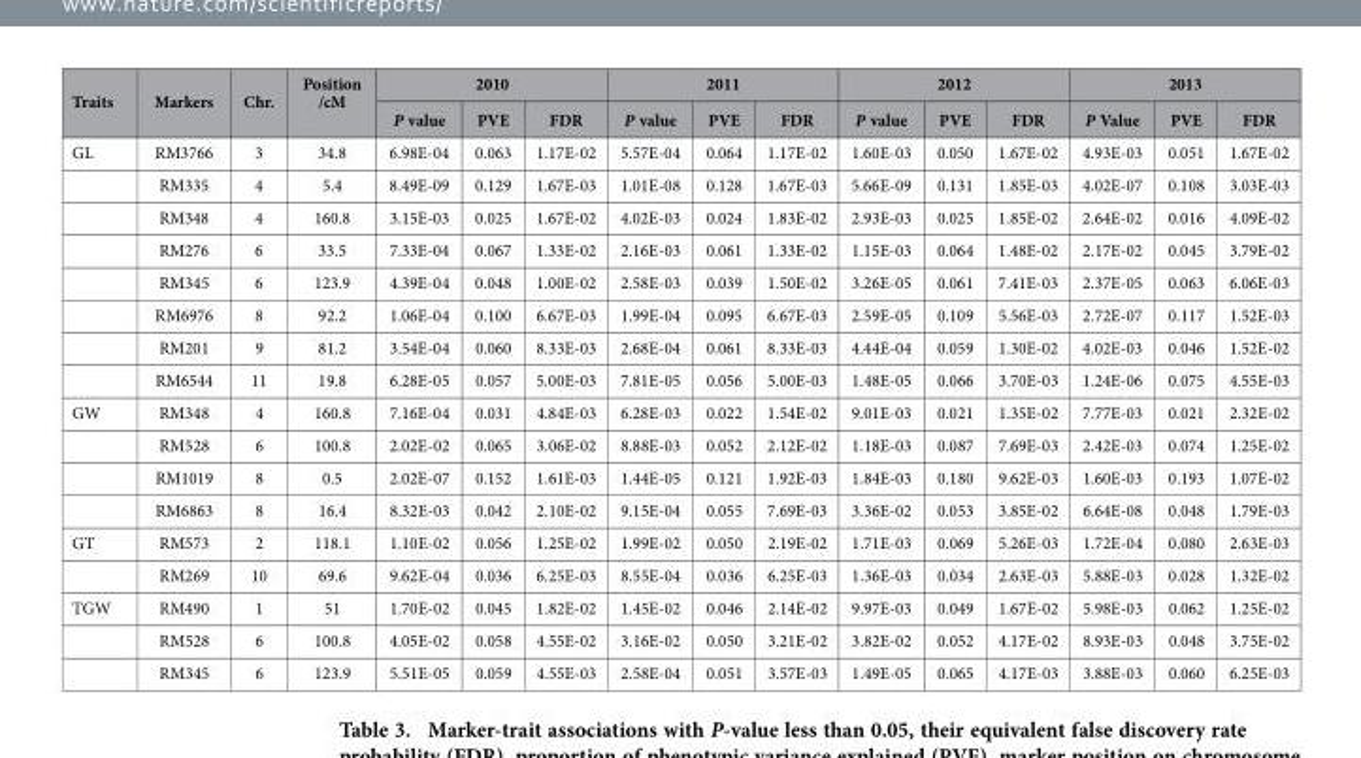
<table><thead><tr><td rowspan="2">Traits</td><td rowspan="2">Markers</td><td rowspan="2">Chr.</td><td rowspan="2">Position /cM</td><td colspan="3">2010</td><td colspan="3">2011</td><td colspan="3">2012</td><td colspan="3">2013</td></tr><tr><td>P value</td><td>PVE</td><td>FDR</td><td>P value</td><td>PVE</td><td>FDR</td><td>P value</td><td>PVE</td><td>FDR</td><td>P Value</td><td>PVE</td><td>FDR</td></tr></thead><tbody><tr><td rowspan="8">GL</td><td>RM3766</td><td>3</td><td>34.8</td><td>6.98E-04</td><td>0.063</td><td>1.17E-02</td><td>5.57E-04</td><td>0.064</td><td>1.17E-02</td><td>1.60E-03</td><td>0.050</td><td>1.67E-02</td><td>4.93E-03</td><td>0.051</td><td>1.67E-02</td></tr><tr><td>RM335</td><td>4</td><td>5.4</td><td>8.49E-09</td><td>0.129</td><td>1.67E-03</td><td>1.01E-08</td><td>0.128</td><td>1.67E-03</td><td>5.66E-09</td><td>0.131</td><td>1.85E-03</td><td>4.02E-07</td><td>0.108</td><td>3.03E-03</td></tr><tr><td>RM348</td><td>4</td><td>160.8</td><td>3.15E-03</td><td>0.025</td><td>1.67E-02</td><td>4.02E-03</td><td>0.024</td><td>1.83E-02</td><td>2.93E-03</td><td>0.025</td><td>1.85E-02</td><td>2.64E-02</td><td>0.016</td><td>4.09E-02</td></tr><tr><td>RM276</td><td>6</td><td>33.5</td><td>7.33E-04</td><td>0.067</td><td>1.33E-02</td><td>2.16E-03</td><td>0.061</td><td>1.33E-02</td><td>1.15E-03</td><td>0.064</td><td>1.48E-02</td><td>2.17E-02</td><td>0.045</td><td>3.79E-02</td></tr><tr><td>RM345</td><td>6</td><td>123.9</td><td>4.39E-04</td><td>0.048</td><td>1.00E-02</td><td>2.58E-03</td><td>0.039</td><td>1.50E-02</td><td>3.26E-05</td><td>0.061</td><td>7.41E-03</td><td>2.37E-05</td><td>0.063</td><td>6.06E-03</td></tr><tr><td>RM6976</td><td>8</td><td>92.2</td><td>1.06E-04</td><td>0.100</td><td>6.67E-03</td><td>1.99E-04</td><td>0.095</td><td>6.67E-03</td><td>2.59E-05</td><td>0.109</td><td>5.56E-03</td><td>2.72E-07</td><td>0.117</td><td>1.52E-03</td></tr><tr><td>RM201</td><td>9</td><td>81.2</td><td>3.54E-04</td><td>0.060</td><td>8.33E-03</td><td>2.68E-04</td><td>0.061</td><td>8.33E-03</td><td>4.44E-04</td><td>0.059</td><td>1.30E-02</td><td>4.02E-03</td><td>0.046</td><td>1.52E-02</td></tr><tr><td>RM6544</td><td>11</td><td>19.8</td><td>6.28E-05</td><td>0.057</td><td>5.00E-03</td><td>7.81E-05</td><td>0.056</td><td>5.00E-03</td><td>1.48E-05</td><td>0.066</td><td>3.70E-03</td><td>1.24E-06</td><td>0.075</td><td>4.55E-03</td></tr><tr><td rowspan="4">GW</td><td>RM348</td><td>4</td><td>160.8</td><td>7.16E-04</td><td>0.031</td><td>4.84E-03</td><td>6.28E-03</td><td>0.022</td><td>1.54E-02</td><td>9.01E-03</td><td>0.021</td><td>1.35E-02</td><td>7.77E-03</td><td>0.021</td><td>2.32E-02</td></tr><tr><td>RM528</td><td>6</td><td>100.8</td><td>2.02E-02</td><td>0.065</td><td>3.06E-02</td><td>8.88E-03</td><td>0.052</td><td>2.12E-02</td><td>1.18E-03</td><td>0.087</td><td>7.69E-03</td><td>2.42E-03</td><td>0.074</td><td>1.25E-02</td></tr><tr><td>RM1019</td><td>8</td><td>0.5</td><td>2.02E-07</td><td>0.152</td><td>1.61E-03</td><td>1.44E-05</td><td>0.121</td><td>1.92E-03</td><td>1.84E-03</td><td>0.180</td><td>9.62E-03</td><td>1.60E-03</td><td>0.193</td><td>1.07E-02</td></tr><tr><td>RM6863</td><td>8</td><td>16.4</td><td>8.32E-03</td><td>0.042</td><td>2.10E-02</td><td>9.15E-04</td><td>0.055</td><td>7.69E-03</td><td>3.36E-02</td><td>0.053</td><td>3.85E-02</td><td>6.64E-08</td><td>0.048</td><td>1.79E-03</td></tr><tr><td rowspan="2">GT</td><td>RM573</td><td>2</td><td>118.1</td><td>1.10E-02</td><td>0.056</td><td>1.25E-02</td><td>1.99E-02</td><td>0.050</td><td>2.19E-02</td><td>1.71E-03</td><td>0.069</td><td>5.26E-03</td><td>1.72E-04</td><td>0.080</td><td>2.63E-03</td></tr><tr><td>RM269</td><td>10</td><td>69.6</td><td>9.62E-04</td><td>0.036</td><td>6.25E-03</td><td>8.55E-04</td><td>0.036</td><td>6.25E-03</td><td>1.36E-03</td><td>0.034</td><td>2.63E-03</td><td>5.88E-03</td><td>0.028</td><td>1.32E-02</td></tr><tr><td rowspan="3">TGW</td><td>RM490</td><td>1</td><td>51</td><td>1.70E-02</td><td>0.045</td><td>1.82E-02</td><td>1.45E-02</td><td>0.046</td><td>2.14E-02</td><td>9.97E-03</td><td>0.049</td><td>1.67E-02</td><td>5.98E-03</td><td>0.062</td><td>1.25E-02</td></tr><tr><td>RM528</td><td>6</td><td>100.8</td><td>4.05E-02</td><td>0.058</td><td>4.55E-02</td><td>3.16E-02</td><td>0.050</td><td>3.21E-02</td><td>3.82E-02</td><td>0.052</td><td>4.17E-02</td><td>8.93E-03</td><td>0.048</td><td>3.75E-02</td></tr><tr><td>RM345</td><td>6</td><td>123.9</td><td>5.51E-05</td><td>0.059</td><td>4.55E-03</td><td>2.58E-04</td><td>0.051</td><td>3.57E-03</td><td>1.49E-05</td><td>0.065</td><td>4.17E-03</td><td>3.88E-03</td><td>0.060</td><td>6.25E-03</td></tr></tbody></table>